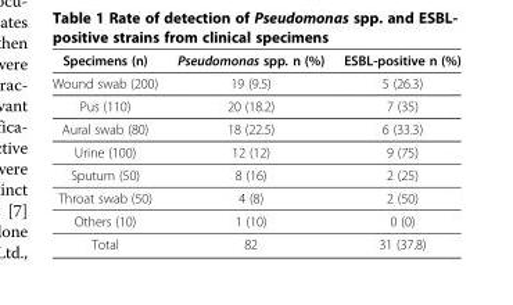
<table><thead><tr><td>Specimens (n)</td><td>Pseudomonas spp. n (%)</td><td>ESBL-positive n (%)</td></tr></thead><tbody><tr><td>Wound swab (200)</td><td>19 (9.5)</td><td>5 (26.3)</td></tr><tr><td>Pus (110)</td><td>20 (18.2)</td><td>7 (35)</td></tr><tr><td>Aural swab (80)</td><td>18 (22.5)</td><td>6 (33.3)</td></tr><tr><td>Urine (100)</td><td>12 (12)</td><td>9 (75)</td></tr><tr><td>Sputum (50)</td><td>8 (16)</td><td>2 (25)</td></tr><tr><td>Throat swab (50)</td><td>4 (8)</td><td>2 (50)</td></tr><tr><td>Others (10)</td><td>1 (10)</td><td>0 (0)</td></tr><tr><td>Total</td><td>82</td><td>31 (37.8)</td></tr></tbody></table>